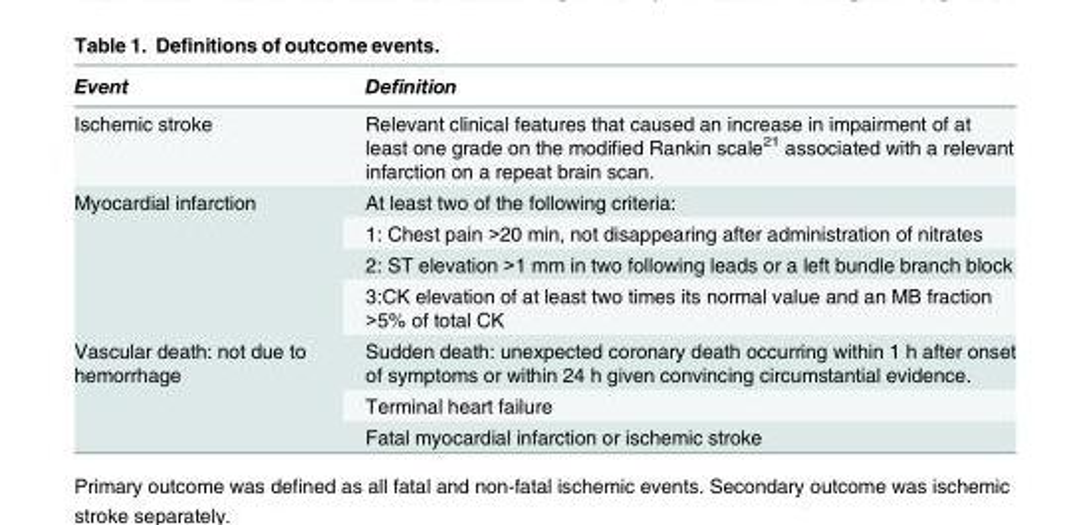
<table><thead><tr><td>Event</td><td>Definition</td></tr></thead><tbody><tr><td>Ischemic stroke</td><td>Relevant clinical features that caused an increase in impairment of at least one grade on the modified Rankin scale<sup>21</sup> associated with a relevant infarction on a repeat brain scan.</td></tr><tr><td rowspan="4">Myocardial infarction</td><td>At least two of the following criteria:</td></tr><tr><td>1: Chest pain &gt;20 min, not disappearing after administration of nitrates</td></tr><tr><td>2: ST elevation &gt;1 mm in two following leads or a left bundle branch block</td></tr><tr><td>3:CK elevation of at least two times its normal value and an MB fraction &gt;5% of total CK</td></tr><tr><td rowspan="3">Vascular death: not due to hemorrhage</td><td>Sudden death: unexpected coronary death occurring within 1 h after onset of symptoms or within 24 h given convincing circumstantial evidence.</td></tr><tr><td>Terminal heart failure</td></tr><tr><td>Fatal myocardial infarction or ischemic stroke</td></tr></tbody></table>